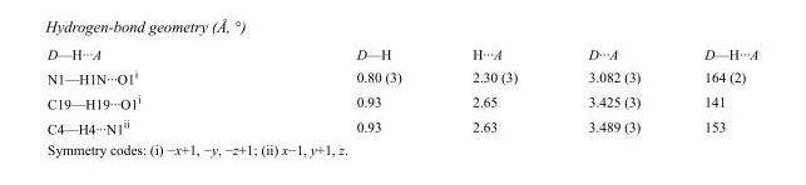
<table><tbody><tr><td>D—H···A</td><td>D—H</td><td>H···A</td><td>D···A</td><td>D—H···A</td></tr><tr><td>N1—H1N···O1<sup>i</sup></td><td>0.80 (3)</td><td>2.30 (3)</td><td>3.082 (3)</td><td>164 (2)</td></tr><tr><td>C19—H19···O1<sup>i</sup></td><td>0.93</td><td>2.65</td><td>3.425 (3)</td><td>141</td></tr><tr><td>C4—H4···N1<sup>ii</sup></td><td>0.93</td><td>2.63</td><td>3.489 (3)</td><td>153</td></tr></tbody></table>